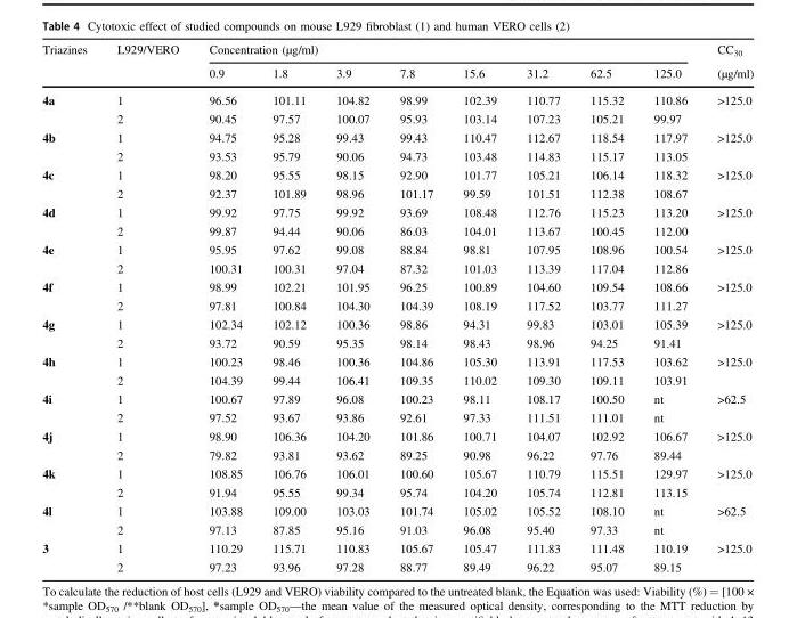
<table><thead><tr><td rowspan="2">Triazines</td><td rowspan="2">L929/VERO</td><td colspan="8">Concentration (µg/ml)</td><td rowspan="2">CC<sub>30</sub> (µg/ml)</td></tr><tr><td>0.9</td><td>1.8</td><td>3.9</td><td>7.8</td><td>15.6</td><td>31.2</td><td>62.5</td><td>125.0</td></tr></thead><tbody><tr><td rowspan="2">4a</td><td>1</td><td>96.56</td><td>101.11</td><td>104.82</td><td>98.99</td><td>102.39</td><td>110.77</td><td>115.32</td><td>110.86</td><td rowspan="2">&gt;125.0</td></tr><tr><td>2</td><td>90.45</td><td>97.57</td><td>100.07</td><td>95.93</td><td>103.14</td><td>107.23</td><td>105.21</td><td>99.97</td></tr><tr><td rowspan="2">4b</td><td>1</td><td>94.75</td><td>95.28</td><td>99.43</td><td>99.43</td><td>110.47</td><td>112.67</td><td>118.54</td><td>117.97</td><td rowspan="2">&gt;125.0</td></tr><tr><td>2</td><td>93.53</td><td>95.79</td><td>90.06</td><td>94.73</td><td>103.48</td><td>114.83</td><td>115.17</td><td>113.05</td></tr><tr><td rowspan="2">4c</td><td>1</td><td>98.20</td><td>95.55</td><td>98.15</td><td>92.90</td><td>101.77</td><td>105.21</td><td>106.14</td><td>118.32</td><td rowspan="2">&gt;125.0</td></tr><tr><td>2</td><td>92.37</td><td>101.89</td><td>98.96</td><td>101.17</td><td>99.59</td><td>101.51</td><td>112.38</td><td>108.67</td></tr><tr><td rowspan="2">4d</td><td>1</td><td>99.92</td><td>97.75</td><td>99.92</td><td>93.69</td><td>108.48</td><td>112.76</td><td>115.23</td><td>113.20</td><td rowspan="2">&gt;125.0</td></tr><tr><td>2</td><td>99.87</td><td>94.44</td><td>90.06</td><td>86.03</td><td>104.01</td><td>113.67</td><td>100.45</td><td>112.00</td></tr><tr><td rowspan="2">4e</td><td>1</td><td>95.95</td><td>97.62</td><td>99.08</td><td>88.84</td><td>98.81</td><td>107.95</td><td>108.96</td><td>100.54</td><td rowspan="2">&gt;125.0</td></tr><tr><td>2</td><td>100.31</td><td>100.31</td><td>97.04</td><td>87.32</td><td>101.03</td><td>113.39</td><td>117.04</td><td>112.86</td></tr><tr><td rowspan="2">4f</td><td>1</td><td>98.99</td><td>102.21</td><td>101.95</td><td>96.25</td><td>100.89</td><td>104.60</td><td>109.54</td><td>108.66</td><td rowspan="2">&gt;125.0</td></tr><tr><td>2</td><td>97.81</td><td>100.84</td><td>104.30</td><td>104.39</td><td>108.19</td><td>117.52</td><td>103.77</td><td>111.27</td></tr><tr><td rowspan="2">4g</td><td>1</td><td>102.34</td><td>102.12</td><td>100.36</td><td>98.86</td><td>94.31</td><td>99.83</td><td>103.01</td><td>105.39</td><td rowspan="2">&gt;125.0</td></tr><tr><td>2</td><td>93.72</td><td>90.59</td><td>95.35</td><td>98.14</td><td>98.43</td><td>98.96</td><td>94.25</td><td>91.41</td></tr><tr><td rowspan="2">4h</td><td>1</td><td>100.23</td><td>98.46</td><td>100.36</td><td>104.86</td><td>105.30</td><td>113.91</td><td>117.53</td><td>103.62</td><td rowspan="2">&gt;125.0</td></tr><tr><td>2</td><td>104.39</td><td>99.44</td><td>106.41</td><td>109.35</td><td>110.02</td><td>109.30</td><td>109.11</td><td>103.91</td></tr><tr><td rowspan="2">4i</td><td>1</td><td>100.67</td><td>97.89</td><td>96.08</td><td>100.23</td><td>98.11</td><td>108.17</td><td>100.50</td><td>nt</td><td rowspan="2">&gt;62.5</td></tr><tr><td>2</td><td>97.52</td><td>93.67</td><td>93.86</td><td>92.61</td><td>97.33</td><td>111.51</td><td>111.01</td><td>nt</td></tr><tr><td rowspan="2">4j</td><td>1</td><td>98.90</td><td>106.36</td><td>104.20</td><td>101.86</td><td>100.71</td><td>104.07</td><td>102.92</td><td>106.67</td><td rowspan="2">&gt;125.0</td></tr><tr><td>2</td><td>79.82</td><td>93.81</td><td>93.62</td><td>89.25</td><td>90.98</td><td>96.22</td><td>97.76</td><td>89.44</td></tr><tr><td rowspan="2">4k</td><td>1</td><td>108.85</td><td>106.76</td><td>106.01</td><td>100.60</td><td>105.67</td><td>110.79</td><td>115.51</td><td>129.97</td><td rowspan="2">&gt;125.0</td></tr><tr><td>2</td><td>91.94</td><td>95.55</td><td>99.34</td><td>95.74</td><td>104.20</td><td>105.74</td><td>112.81</td><td>113.15</td></tr><tr><td rowspan="2">4l</td><td>1</td><td>103.88</td><td>109.00</td><td>103.03</td><td>101.74</td><td>105.02</td><td>105.52</td><td>108.10</td><td>nt</td><td rowspan="2">&gt;62.5</td></tr><tr><td>2</td><td>97.13</td><td>87.85</td><td>95.16</td><td>91.03</td><td>96.08</td><td>95.40</td><td>97.33</td><td>nt</td></tr><tr><td rowspan="2">3</td><td>1</td><td>110.29</td><td>115.71</td><td>110.83</td><td>105.67</td><td>105.47</td><td>111.83</td><td>111.48</td><td>110.19</td><td rowspan="2">&gt;125.0</td></tr><tr><td>2</td><td>97.23</td><td>93.96</td><td>97.28</td><td>88.77</td><td>89.49</td><td>96.22</td><td>95.07</td><td>89.15</td></tr></tbody></table>